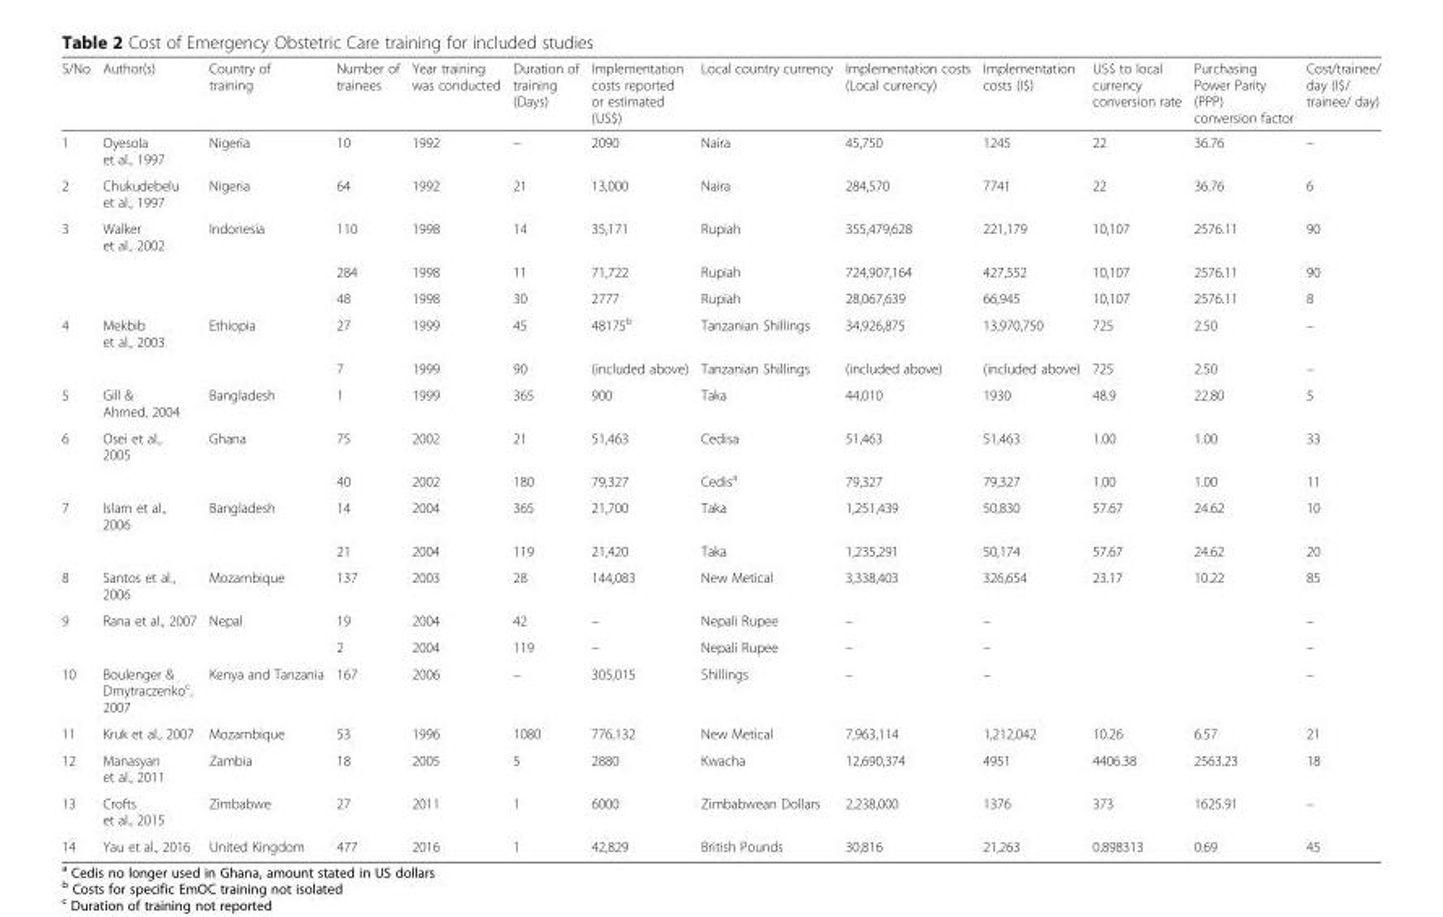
<table><thead><tr><td>S/No</td><td>Author(s)</td><td>Country of training</td><td>Number of trainees</td><td>Year training was conducted</td><td>Duration of training (Days)</td><td>Implementation costs reported or estimated (US$)</td><td>Local country currency</td><td>Implementation costs (Local currency)</td><td>Implementation costs (I$)</td><td>US$ to local currency conversion rate</td><td>Purchasing Power Parity (PPP) conversion factor</td><td>Cost/trainee/ day (I$/ trainee/ day)</td></tr></thead><tbody><tr><td>1</td><td>Oyesola et al., 1997</td><td>Nigeria</td><td>10</td><td>1992</td><td>–</td><td>2090</td><td>Naira</td><td>45,750</td><td>1245</td><td>22</td><td>36.76</td><td>–</td></tr><tr><td>2</td><td>Chukudebelu et al., 1997</td><td>Nigeria</td><td>64</td><td>1992</td><td>21</td><td>13,000</td><td>Naira</td><td>284,570</td><td>7741</td><td>22</td><td>36.76</td><td>6</td></tr><tr><td rowspan="3">3</td><td>Walker et al., 2002</td><td>Indonesia</td><td>110</td><td>1998</td><td>14</td><td>35,171</td><td>Rupiah</td><td>355,479,628</td><td>221,179</td><td>10,107</td><td>2576.11</td><td>90</td></tr><tr><td></td><td></td><td>284</td><td>1998</td><td>11</td><td>71,722</td><td>Rupiah</td><td>724,907,164</td><td>427,552</td><td>10,107</td><td>2576.11</td><td>90</td></tr><tr><td></td><td></td><td>48</td><td>1998</td><td>30</td><td>2777</td><td>Rupiah</td><td>28,067,639</td><td>66,945</td><td>10,107</td><td>2576.11</td><td>8</td></tr><tr><td rowspan="2">4</td><td>Mekbib et al., 2003</td><td>Ethiopia</td><td>27</td><td>1999</td><td>45</td><td>48175<sup>b</sup></td><td>Tanzanian Shillings</td><td>34,926,875</td><td>13,970,750</td><td>725</td><td>2.50</td><td>–</td></tr><tr><td></td><td></td><td>7</td><td>1999</td><td>90</td><td>(included above)</td><td>Tanzanian Shillings</td><td>(included above)</td><td>(included above)</td><td>725</td><td>2.50</td><td>–</td></tr><tr><td>5</td><td>Gill &amp; Ahmed, 2004</td><td>Bangladesh</td><td>1</td><td>1999</td><td>365</td><td>900</td><td>Taka</td><td>44,010</td><td>1930</td><td>48.9</td><td>22.80</td><td>5</td></tr><tr><td rowspan="2">6</td><td>Osei et al., 2005</td><td>Ghana</td><td>75</td><td>2002</td><td>21</td><td>51,463</td><td>Cedisa</td><td>51,463</td><td>51,463</td><td>1.00</td><td>1.00</td><td>33</td></tr><tr><td></td><td></td><td>40</td><td>2002</td><td>180</td><td>79,327</td><td>Cedis<sup>a</sup></td><td>79,327</td><td>79,327</td><td>1.00</td><td>1.00</td><td>11</td></tr><tr><td rowspan="2">7</td><td>Islam et al., 2006</td><td>Bangladesh</td><td>14</td><td>2004</td><td>365</td><td>21,700</td><td>Taka</td><td>1,251,439</td><td>50,830</td><td>57.67</td><td>24.62</td><td>10</td></tr><tr><td></td><td></td><td>21</td><td>2004</td><td>119</td><td>21,420</td><td>Taka</td><td>1,235,291</td><td>50,174</td><td>57.67</td><td>24.62</td><td>20</td></tr><tr><td>8</td><td>Santos et al., 2006</td><td>Mozambique</td><td>137</td><td>2003</td><td>28</td><td>144,083</td><td>New Metical</td><td>3,338,403</td><td>326,654</td><td>23.17</td><td>10.22</td><td>85</td></tr><tr><td rowspan="2">9</td><td>Rana et al., 2007</td><td>Nepal</td><td>19</td><td>2004</td><td>42</td><td>–</td><td>Nepali Rupee</td><td>–</td><td>–</td><td></td><td></td><td>–</td></tr><tr><td></td><td></td><td>2</td><td>2004</td><td>119</td><td>–</td><td>Nepali Rupee</td><td>–</td><td>–</td><td></td><td></td><td>–</td></tr><tr><td>10</td><td>Boulenger &amp; Dmytraczenko<sup>c</sup>, 2007</td><td>Kenya and Tanzania</td><td>167</td><td>2006</td><td>–</td><td>305,015</td><td>Shillings</td><td>–</td><td>–</td><td></td><td></td><td>–</td></tr><tr><td>11</td><td>Kruk et al., 2007</td><td>Mozambique</td><td>53</td><td>1996</td><td>1080</td><td>776,132</td><td>New Metical</td><td>7,963,114</td><td>1,212,042</td><td>10.26</td><td>6.57</td><td>21</td></tr><tr><td>12</td><td>Manasyan et al., 2011</td><td>Zambia</td><td>18</td><td>2005</td><td>5</td><td>2880</td><td>Kwacha</td><td>12,690,374</td><td>4951</td><td>4406.38</td><td>2563.23</td><td>18</td></tr><tr><td>13</td><td>Crofts et al., 2015</td><td>Zimbabwe</td><td>27</td><td>2011</td><td>1</td><td>6000</td><td>Zimbabwean Dollars</td><td>2,238,000</td><td>1376</td><td>373</td><td>1625.91</td><td>–</td></tr><tr><td>14</td><td>Yau et al., 2016</td><td>United Kingdom</td><td>477</td><td>2016</td><td>1</td><td>42,829</td><td>British Pounds</td><td>30,816</td><td>21,263</td><td>0.898313</td><td>0.69</td><td>45</td></tr></tbody></table>